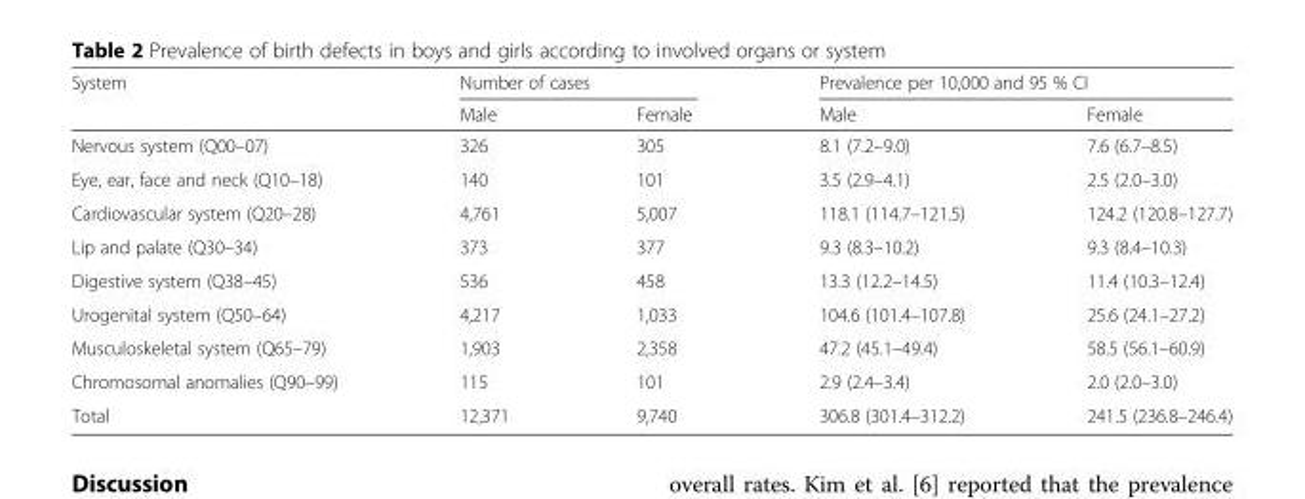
<table><thead><tr><td rowspan="2">System</td><td colspan="2">Number of cases</td><td colspan="2">Prevalence per 10,000 and 95 % CI</td></tr><tr><td>Male</td><td>Female</td><td>Male</td><td>Female</td></tr></thead><tbody><tr><td>Nervous system (Q00–07)</td><td>326</td><td>305</td><td>8.1 (7.2–9.0)</td><td>7.6 (6.7–8.5)</td></tr><tr><td>Eye, ear, face and neck (Q10–18)</td><td>140</td><td>101</td><td>3.5 (2.9–4.1)</td><td>2.5 (2.0–3.0)</td></tr><tr><td>Cardiovascular system (Q20–28)</td><td>4,761</td><td>5,007</td><td>118.1 (114.7–121.5)</td><td>124.2 (120.8–127.7)</td></tr><tr><td>Lip and palate (Q30–34)</td><td>373</td><td>377</td><td>9.3 (8.3–10.2)</td><td>9.3 (8.4–10.3)</td></tr><tr><td>Digestive system (Q38–45)</td><td>536</td><td>458</td><td>13.3 (12.2–14.5)</td><td>11.4 (10.3–12.4)</td></tr><tr><td>Urogenital system (Q50–64)</td><td>4,217</td><td>1,033</td><td>104.6 (101.4–107.8)</td><td>25.6 (24.1–27.2)</td></tr><tr><td>Musculoskeletal system (Q65–79)</td><td>1,903</td><td>2,358</td><td>47.2 (45.1–49.4)</td><td>58.5 (56.1–60.9)</td></tr><tr><td>Chromosomal anomalies (Q90–99)</td><td>115</td><td>101</td><td>2.9 (2.4–3.4)</td><td>2.0 (2.0–3.0)</td></tr><tr><td>Total</td><td>12,371</td><td>9,740</td><td>306.8 (301.4–312.2)</td><td>241.5 (236.8–246.4)</td></tr></tbody></table>